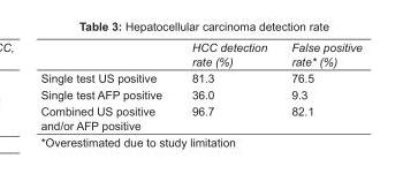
<table><thead><tr><td></td><td>HCC detection rate (%)</td><td>False positive rate* (%)</td></tr></thead><tbody><tr><td>Single test US positive</td><td>81.3</td><td>76.5</td></tr><tr><td>Single test AFP positive</td><td>36.0</td><td>9.3</td></tr><tr><td>Combined US positive and/or AFP positive</td><td>96.7</td><td>82.1</td></tr></tbody></table>